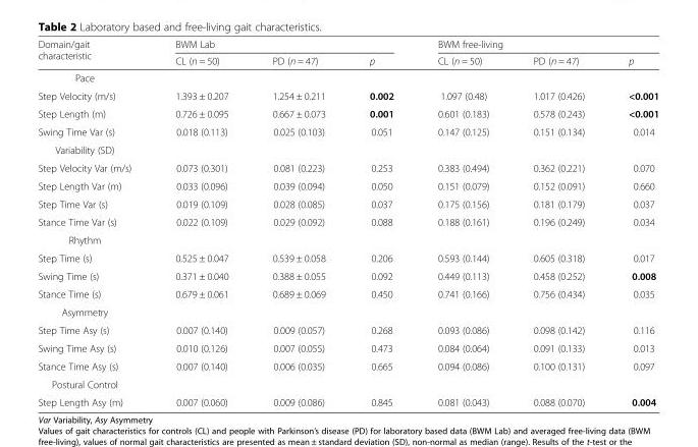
<table><thead><tr><td rowspan="2">Domain/gait characteristic</td><td colspan="3">BWM Lab</td><td colspan="3">BWM free-living</td></tr><tr><td>CL (n = 50)</td><td>PD (n = 47)</td><td>p</td><td>CL (n = 50)</td><td>PD (n = 47)</td><td>p</td></tr></thead><tbody><tr><td colspan="7">Pace</td></tr><tr><td>Step Velocity (m/s)</td><td>1.393 ± 0.207</td><td>1.254 ± 0.211</td><td>0.002</td><td>1.097 (0.48)</td><td>1.017 (0.426)</td><td>&lt;0.001</td></tr><tr><td>Step Length (m)</td><td>0.726 ± 0.095</td><td>0.667 ± 0.073</td><td>0.001</td><td>0.601 (0.183)</td><td>0.578 (0.243)</td><td>&lt;0.001</td></tr><tr><td>Swing Time Var (s)</td><td>0.018 (0.113)</td><td>0.025 (0.103)</td><td>0.051</td><td>0.147 (0.125)</td><td>0.151 (0.134)</td><td>0.014</td></tr><tr><td colspan="7">Variability (SD)</td></tr><tr><td>Step Velocity Var (m/s)</td><td>0.073 (0.301)</td><td>0.081 (0.223)</td><td>0.253</td><td>0.383 (0.494)</td><td>0.362 (0.221)</td><td>0.070</td></tr><tr><td>Step Length Var (m)</td><td>0.033 (0.096)</td><td>0.039 (0.094)</td><td>0.050</td><td>0.151 (0.079)</td><td>0.152 (0.091)</td><td>0.660</td></tr><tr><td>Step Time Var (s)</td><td>0.019 (0.109)</td><td>0.028 (0.085)</td><td>0.037</td><td>0.175 (0.156)</td><td>0.181 (0.179)</td><td>0.037</td></tr><tr><td>Stance Time Var (s)</td><td>0.022 (0.109)</td><td>0.029 (0.092)</td><td>0.088</td><td>0.188 (0.161)</td><td>0.196 (0.249)</td><td>0.034</td></tr><tr><td colspan="7">Rhythm</td></tr><tr><td>Step Time (s)</td><td>0.525 ± 0.047</td><td>0.539 ± 0.058</td><td>0.206</td><td>0.593 (0.144)</td><td>0.605 (0.318)</td><td>0.017</td></tr><tr><td>Swing Time (s)</td><td>0.371 ± 0.040</td><td>0.388 ± 0.055</td><td>0.092</td><td>0.449 (0.113)</td><td>0.458 (0.252)</td><td>0.008</td></tr><tr><td>Stance Time (s)</td><td>0.679 ± 0.061</td><td>0.689 ± 0.069</td><td>0.450</td><td>0.741 (0.166)</td><td>0.756 (0.434)</td><td>0.035</td></tr><tr><td colspan="7">Asymmetry</td></tr><tr><td>Step Time Asy (s)</td><td>0.007 (0.140)</td><td>0.009 (0.057)</td><td>0.268</td><td>0.093 (0.086)</td><td>0.098 (0.142)</td><td>0.116</td></tr><tr><td>Swing Time Asy (s)</td><td>0.010 (0.126)</td><td>0.007 (0.055)</td><td>0.473</td><td>0.084 (0.064)</td><td>0.091 (0.133)</td><td>0.013</td></tr><tr><td>Stance Time Asy (s)</td><td>0.007 (0.140)</td><td>0.006 (0.035)</td><td>0.665</td><td>0.094 (0.086)</td><td>0.100 (0.131)</td><td>0.097</td></tr><tr><td colspan="7">Postural Control</td></tr><tr><td>Step Length Asy (m)</td><td>0.007 (0.060)</td><td>0.009 (0.086)</td><td>0.845</td><td>0.081 (0.043)</td><td>0.088 (0.070)</td><td>0.004</td></tr></tbody></table>